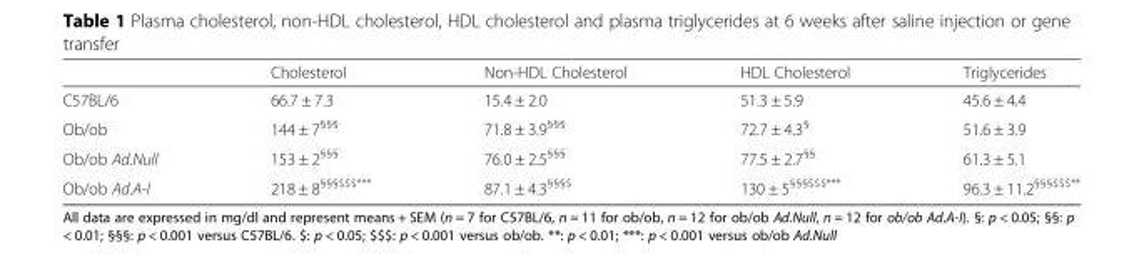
<table><thead><tr><td></td><td>Cholesterol</td><td>Non-HDL Cholesterol</td><td>HDL Cholesterol</td><td>Triglycerides</td></tr></thead><tbody><tr><td>C57BL/6</td><td>66.7 ± 7.3</td><td>15.4 ± 2.0</td><td>51.3 ± 5.9</td><td>45.6 ± 4.4</td></tr><tr><td>Ob/ob</td><td>144 ± 7<sup>§§§</sup></td><td>71.8 ± 3.9<sup>§§§</sup></td><td>72.7 ± 4.3<sup>§</sup></td><td>51.6 ± 3.9</td></tr><tr><td>Ob/ob Ad.Null</td><td>153 ± 2<sup>§§§</sup></td><td>76.0 ± 2.5<sup>§§§</sup></td><td>77.5 ± 2.7<sup>§§</sup></td><td>61.3 ± 5.1</td></tr><tr><td>Ob/ob Ad.A-I</td><td>218 ± 8<sup>§§§$$$***</sup></td><td>87.1 ± 4.3<sup>§§§$</sup></td><td>130 ± 5<sup>§§§$$$***</sup></td><td>96.3 ± 11.2<sup>§§§$$$**</sup></td></tr></tbody></table>